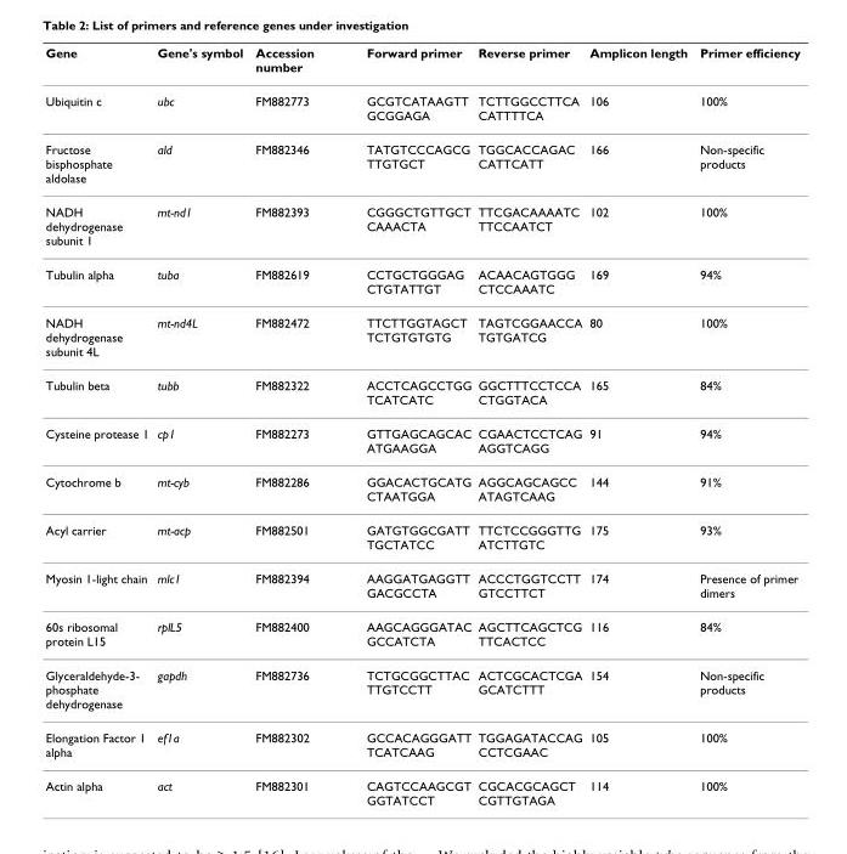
<table><thead><tr><td>Gene</td><td>Gene&#x27;s symbol</td><td>Accession number</td><td>Forward primer</td><td>Reverse primer</td><td>Amplicon length</td><td>Primer efficiency</td></tr></thead><tbody><tr><td>Ubiquitin c</td><td>ubc</td><td>FM882773</td><td>GCGTCATAAGTT GCGGAGA</td><td>TCTTGGCCTTCA CATTTTCA</td><td>106</td><td>100%</td></tr><tr><td>Fructose bisphosphate aldolase</td><td>ald</td><td>FM882346</td><td>TATGTCCCAGCG TTGTGCT</td><td>TGGCACCAGAC CATTCATT</td><td>166</td><td>Non-specific products</td></tr><tr><td>NADH dehydrogenase subunit 1</td><td>mt-nd1</td><td>FM882393</td><td>CGGGCTGTTGCT CAAACTA</td><td>TTCGACAAAATC TTCCAATCT</td><td>102</td><td>100%</td></tr><tr><td>Tubulin alpha</td><td>tuba</td><td>FM882619</td><td>CCTGCTGGGAG CTGTATTGT</td><td>ACAACAGTGGG CTCCAAATC</td><td>169</td><td>94%</td></tr><tr><td>NADH dehydrogenase subunit 4L</td><td>mt-nd4L</td><td>FM882472</td><td>TTCTTGGTAGCT TCTGTGTGTG</td><td>TAGTCGGAACCA TGTGATCG</td><td>80</td><td>100%</td></tr><tr><td>Tubulin beta</td><td>tubb</td><td>FM882322</td><td>ACCTCAGCCTGG TCATCATC</td><td>GGCTTTCCTCCA CTGGTACA</td><td>165</td><td>84%</td></tr><tr><td>Cysteine protease 1</td><td>cp1</td><td>FM882273</td><td>GTTGAGCAGCAC ATGAAGGA</td><td>CGAACTCCTCAG AGGTCAGG</td><td>91</td><td>94%</td></tr><tr><td>Cytochrome b</td><td>mt-cyb</td><td>FM882286</td><td>GGACACTGCATG CTAATGGA</td><td>AGGCAGCAGCC ATAGTCAAG</td><td>144</td><td>91%</td></tr><tr><td>Acyl carrier</td><td>mt-acp</td><td>FM882501</td><td>GATGTGGCGATT TGCTATCC</td><td>TTCTCCGGGTTG ATCTTGTC</td><td>175</td><td>93%</td></tr><tr><td>Myosin 1-light chain</td><td>mlc1</td><td>FM882394</td><td>AAGGATGAGGTT GACGCCTA</td><td>ACCCTGGTCCTT GTCCTTCT</td><td>174</td><td>Presence of primer dimers</td></tr><tr><td>60s ribosomal protein L15</td><td>rplL5</td><td>FM882400</td><td>AAGCAGGGATAC GCCATCTA</td><td>AGCTTCAGCTCG TTCACTCC</td><td>116</td><td>84%</td></tr><tr><td>Glyceraldehyde-3- phosphate dehydrogenase</td><td>gapdh</td><td>FM882736</td><td>TCTGCGGCTTAC TTGTCCTT</td><td>ACTCGCACTCGA GCATCTTT</td><td>154</td><td>Non-specific products</td></tr><tr><td>Elongation Factor 1 alpha</td><td>ef1a</td><td>FM882302</td><td>GCCACAGGGATT TCATCAAG</td><td>TGGAGATACCAG CCTCGAAC</td><td>105</td><td>100%</td></tr><tr><td>Actin alpha</td><td>act</td><td>FM882301</td><td>CAGTCCAAGCGT GGTATCCT</td><td>CGCACGCAGCT CGTTGTAGA</td><td>114</td><td>100%</td></tr></tbody></table>